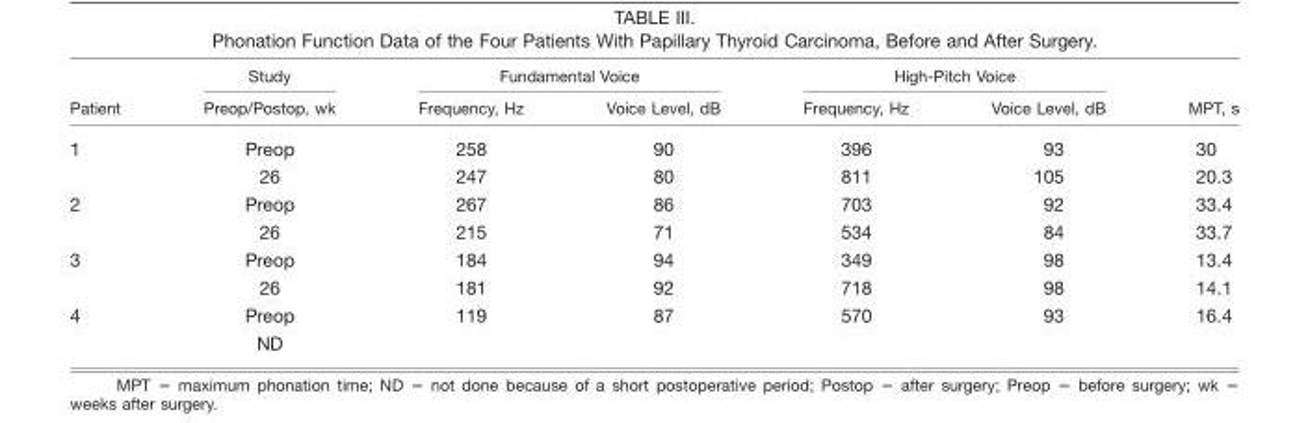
<table><thead><tr><td rowspan="2">Patient</td><td rowspan="2">Study Preop/Postop, wk</td><td colspan="2">Fundamental Voice</td><td colspan="2">High-Pitch Voice</td><td rowspan="2">MPT, s</td></tr><tr><td>Frequency, Hz</td><td>Voice Level, dB</td><td>Frequency, Hz</td><td>Voice Level, dB</td></tr></thead><tbody><tr><td rowspan="2">1</td><td>Preop</td><td>258</td><td>90</td><td>396</td><td>93</td><td>30</td></tr><tr><td>26</td><td>247</td><td>80</td><td>811</td><td>105</td><td>20.3</td></tr><tr><td rowspan="2">2</td><td>Preop</td><td>267</td><td>86</td><td>703</td><td>92</td><td>33.4</td></tr><tr><td>26</td><td>215</td><td>71</td><td>534</td><td>84</td><td>33.7</td></tr><tr><td rowspan="2">3</td><td>Preop</td><td>184</td><td>94</td><td>349</td><td>98</td><td>13.4</td></tr><tr><td>26</td><td>181</td><td>92</td><td>718</td><td>98</td><td>14.1</td></tr><tr><td rowspan="2">4</td><td>Preop</td><td>119</td><td>87</td><td>570</td><td>93</td><td>16.4</td></tr><tr><td>ND</td><td></td><td></td><td></td><td></td><td></td></tr></tbody></table>